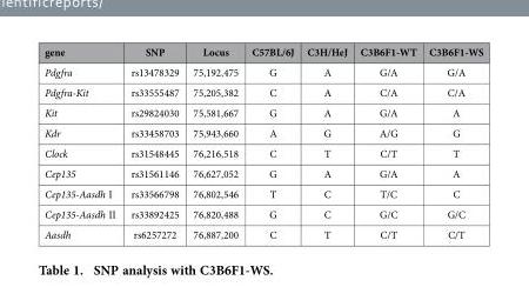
<table><thead><tr><td>gene</td><td>SNP</td><td>Locus</td><td>C57BL/6J</td><td>C3H/HeJ</td><td>C3B6F1-WT</td><td>C3B6F1-WS</td></tr></thead><tbody><tr><td>Pdgfra</td><td>rs13478329</td><td>75,192,475</td><td>G</td><td>A</td><td>G/A</td><td>G/A</td></tr><tr><td>Pdgfra-Kit</td><td>rs33555487</td><td>75,205,382</td><td>C</td><td>A</td><td>C/A</td><td>C/A</td></tr><tr><td>Kit</td><td>rs29824030</td><td>75,581,667</td><td>G</td><td>A</td><td>G/A</td><td>A</td></tr><tr><td>Kdr</td><td>rs33458703</td><td>75,943,660</td><td>A</td><td>G</td><td>A/G</td><td>G</td></tr><tr><td>Clock</td><td>rs31548445</td><td>76,216,518</td><td>C</td><td>T</td><td>C/T</td><td>T</td></tr><tr><td>Cep135</td><td>rs31561146</td><td>76,627,052</td><td>G</td><td>A</td><td>G/A</td><td>A</td></tr><tr><td>Cep135-Aasdh I</td><td>rs33566798</td><td>76,802,546</td><td>T</td><td>C</td><td>T/C</td><td>C</td></tr><tr><td>Cep135-Aasdh II</td><td>rs33892425</td><td>76,820,488</td><td>G</td><td>C</td><td>G/C</td><td>G/C</td></tr><tr><td>Aasdh</td><td>rs6257272</td><td>76,887,200</td><td>C</td><td>T</td><td>C/T</td><td>C/T</td></tr></tbody></table>